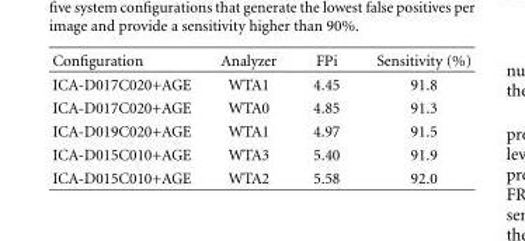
<table><thead><tr><td>Configuration</td><td>Analyzer</td><td>FPi</td><td>Sensitivity (%)</td></tr></thead><tbody><tr><td>ICA-D017C020+AGE</td><td>WTA1</td><td>4.45</td><td>91.8</td></tr><tr><td>ICA-D017C020+AGE</td><td>WTA0</td><td>4.85</td><td>91.3</td></tr><tr><td>ICA-D019C020+AGE</td><td>WTA1</td><td>4.97</td><td>91.5</td></tr><tr><td>ICA-D015C010+AGE</td><td>WTA3</td><td>5.40</td><td>91.9</td></tr><tr><td>ICA-D015C010+AGE</td><td>WTA2</td><td>5.58</td><td>92.0</td></tr></tbody></table>